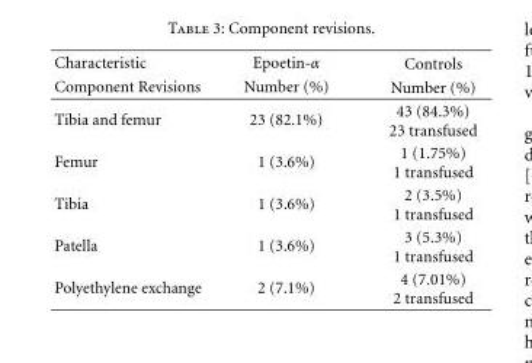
<table><thead><tr><td rowspan="2">Characteristic Component Revisions</td><td rowspan="2">Epoetin-α Number (%)</td><td rowspan="2">Controls Number (%)</td></tr><tr></tr></thead><tbody><tr><td>Tibia and femur</td><td>23 (82.1%)</td><td>43 (84.3%) 23 transfused</td></tr><tr><td>Femur</td><td>1 (3.6%)</td><td>1 (1.75%) 1 transfused</td></tr><tr><td>Tibia</td><td>1 (3.6%)</td><td>2 (3.5%) 1 transfused</td></tr><tr><td>Patella</td><td>1 (3.6%)</td><td>3 (5.3%) 1 transfused</td></tr><tr><td>Polyethylene exchange</td><td>2 (7.1%)</td><td>4 (7.01%) 2 transfused</td></tr></tbody></table>